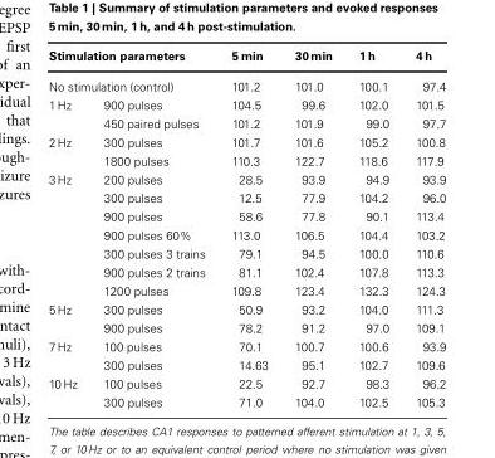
<table><thead><tr><td rowspan="2" colspan="2">Stimulation parameters No stimulation (control)</td><td rowspan="3">5 min 101.2 104.5</td><td rowspan="3">30 min 101.0 99.6</td><td rowspan="3">1 h 100.1 102.0</td><td rowspan="3">4 h 97.4 101.5</td></tr><tr></tr><tr><td>1 Hz</td><td>900 pulses</td></tr></thead><tbody><tr><td></td><td>450 paired pulses</td><td>101.2</td><td>101.9</td><td>99.0</td><td>97.7</td></tr><tr><td rowspan="2">2 Hz</td><td>300 pulses</td><td>101.7</td><td>101.6</td><td>105.2</td><td>100.8</td></tr><tr><td>1800 pulses</td><td>110.3</td><td>122.7</td><td>118.6</td><td>117.9</td></tr><tr><td rowspan="7">3 Hz</td><td>200 pulses</td><td>28.5</td><td>93.9</td><td>94.9</td><td>93.9</td></tr><tr><td>300 pulses</td><td>12.5</td><td>77.9</td><td>104.2</td><td>96.0</td></tr><tr><td>900 pulses</td><td>58.6</td><td>77.8</td><td>90.1</td><td>113.4</td></tr><tr><td>900 pulses 60%</td><td>113.0</td><td>106.5</td><td>104.4</td><td>103.2</td></tr><tr><td>300 pulses 3 trains</td><td>79.1</td><td>94.5</td><td>100.0</td><td>110.6</td></tr><tr><td>900 pulses 2 trains</td><td>81.1</td><td>102.4</td><td>107.8</td><td>113.3</td></tr><tr><td>1200 pulses</td><td>109.8</td><td>123.4</td><td>132.3</td><td>124.3</td></tr><tr><td rowspan="2">5 Hz</td><td>300 pulses</td><td>50.9</td><td>93.2</td><td>104.0</td><td>111.3</td></tr><tr><td>900 pulses</td><td>78.2</td><td>91.2</td><td>97.0</td><td>109.1</td></tr><tr><td rowspan="2">7 Hz</td><td>100 pulses</td><td>70.1</td><td>100.7</td><td>100.6</td><td>93.9</td></tr><tr><td>300 pulses</td><td>14.63</td><td>95.1</td><td>102.7</td><td>109.6</td></tr><tr><td rowspan="2">10 Hz</td><td>100 pulses</td><td>22.5</td><td>92.7</td><td>98.3</td><td>96.2</td></tr><tr><td>300 pulses</td><td>71.0</td><td>104.0</td><td>102.5</td><td>105.3</td></tr></tbody></table>